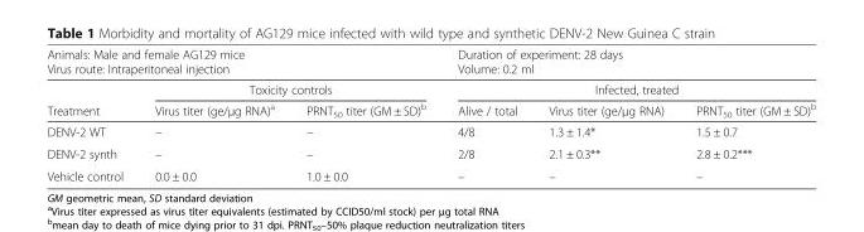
<table><thead><tr><td rowspan="2" colspan="3">Animals: Male and female AG129 mice Virus route: Intraperitoneal injection</td><td rowspan="3" colspan="3">Duration of experiment: 28 days Volume: 0.2 ml Infected, treated</td></tr><tr></tr><tr><td rowspan="2">Treatment</td><td colspan="2">Toxicity controls</td></tr><tr><td>Virus titer (ge/μg RNA)<sup>a</sup></td><td>PRNT<sub>50</sub> titer (GM ± SD)<sup>b</sup></td><td>Alive / total</td><td>Virus titer (ge/μg RNA)</td><td>PRNT<sub>50</sub> titer (GM ± SD)<sup>b</sup></td></tr></thead><tbody><tr><td>DENV-2 WT</td><td>–</td><td>–</td><td>4/8</td><td>1.3 ± 1.4*</td><td>1.5 ± 0.7</td></tr><tr><td>DENV-2 synth</td><td>–</td><td>–</td><td>2/8</td><td>2.1 ± 0.3**</td><td>2.8 ± 0.2***</td></tr><tr><td>Vehicle control</td><td>0.0 ± 0.0</td><td>1.0 ± 0.0</td><td>–</td><td>–</td><td>–</td></tr></tbody></table>